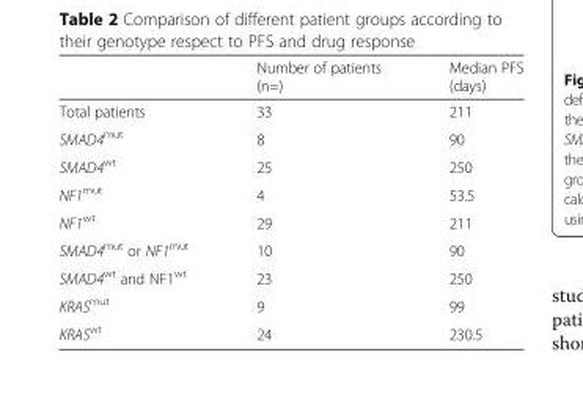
<table><thead><tr><td></td><td>Number of patients (n=)</td><td>Median PFS (days)</td></tr></thead><tbody><tr><td>Total patients</td><td>33</td><td>211</td></tr><tr><td>SMAD4<sup>mut</sup></td><td>8</td><td>90</td></tr><tr><td>SMAD4<sup>wt</sup></td><td>25</td><td>250</td></tr><tr><td>NF1<sup>mut</sup></td><td>4</td><td>53.5</td></tr><tr><td>NF1<sup>wt</sup></td><td>29</td><td>211</td></tr><tr><td>SMAD4<sup>mut</sup> or NF1<sup>mut</sup></td><td>10</td><td>90</td></tr><tr><td>SMAD4<sup>wt</sup> and NF1<sup>wt</sup></td><td>23</td><td>250</td></tr><tr><td>KRAS<sup>mut</sup></td><td>9</td><td>99</td></tr><tr><td>KRAS<sup>wt</sup></td><td>24</td><td>230.5</td></tr></tbody></table>